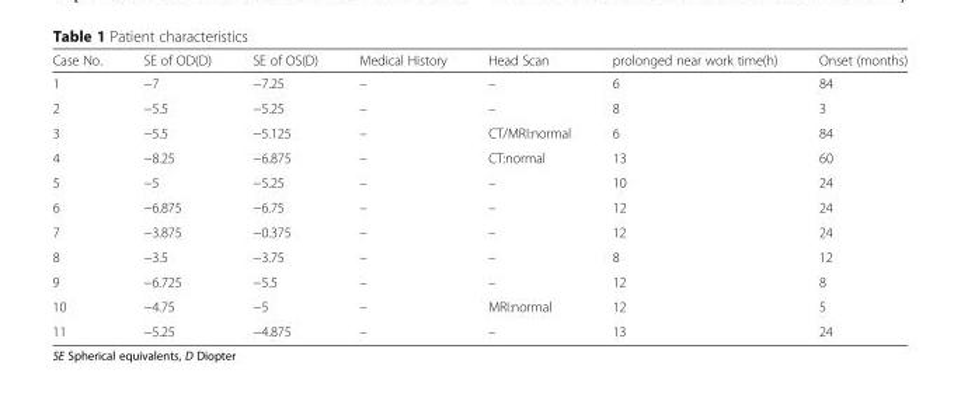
<table><thead><tr><td>Case No.</td><td>SE of OD(D)</td><td>SE of OS(D)</td><td>Medical History</td><td>Head Scan</td><td>prolonged near work time(h)</td><td>Onset (months)</td></tr></thead><tbody><tr><td>1</td><td>−7</td><td>−7.25</td><td>–</td><td>–</td><td>6</td><td>84</td></tr><tr><td>2</td><td>−5.5</td><td>−5.25</td><td>–</td><td>–</td><td>8</td><td>3</td></tr><tr><td>3</td><td>−5.5</td><td>−5.125</td><td>–</td><td>CT/MRI:normal</td><td>6</td><td>84</td></tr><tr><td>4</td><td>−8.25</td><td>−6.875</td><td>–</td><td>CT:normal</td><td>13</td><td>60</td></tr><tr><td>5</td><td>−5</td><td>−5.25</td><td>–</td><td>–</td><td>10</td><td>24</td></tr><tr><td>6</td><td>−6.875</td><td>−6.75</td><td>–</td><td>–</td><td>12</td><td>24</td></tr><tr><td>7</td><td>−3.875</td><td>−0.375</td><td>–</td><td>–</td><td>12</td><td>24</td></tr><tr><td>8</td><td>−3.5</td><td>−3.75</td><td>–</td><td>–</td><td>8</td><td>12</td></tr><tr><td>9</td><td>−6.725</td><td>−5.5</td><td>–</td><td>–</td><td>12</td><td>8</td></tr><tr><td>10</td><td>−4.75</td><td>−5</td><td>–</td><td>MRI:normal</td><td>12</td><td>5</td></tr><tr><td>11</td><td>−5.25</td><td>−4.875</td><td>–</td><td>–</td><td>13</td><td>24</td></tr></tbody></table>